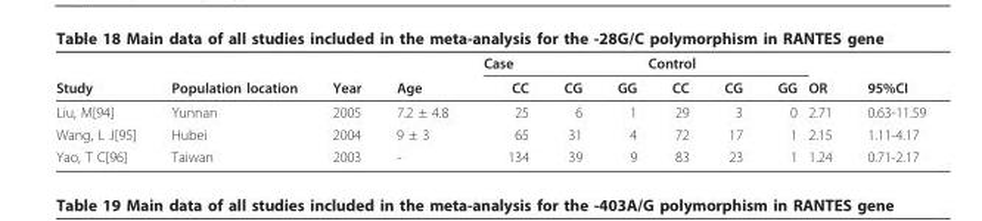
<table><thead><tr><td rowspan="2">Study</td><td rowspan="2">Population location</td><td rowspan="2">Year</td><td rowspan="2">Age</td><td colspan="3">Case</td><td colspan="3">Control</td><td rowspan="2">OR</td><td rowspan="2">95%CI</td></tr><tr><td>CC</td><td>CG</td><td>GG</td><td>CC</td><td>CG</td><td>GG</td></tr></thead><tbody><tr><td>Liu, M[94]</td><td>Yunnan</td><td>2005</td><td>7.2 ± 4.8</td><td>25</td><td>6</td><td>1</td><td>29</td><td>3</td><td>0</td><td>2.71</td><td>0.63-11.59</td></tr><tr><td>Wang, L J[95]</td><td>Hubei</td><td>2004</td><td>9 ± 3</td><td>65</td><td>31</td><td>4</td><td>72</td><td>17</td><td>1</td><td>2.15</td><td>1.11-4.17</td></tr><tr><td>Yao, T C[96]</td><td>Taiwan</td><td>2003</td><td>-</td><td>134</td><td>39</td><td>9</td><td>83</td><td>23</td><td>1</td><td>1.24</td><td>0.71-2.17</td></tr></tbody></table>